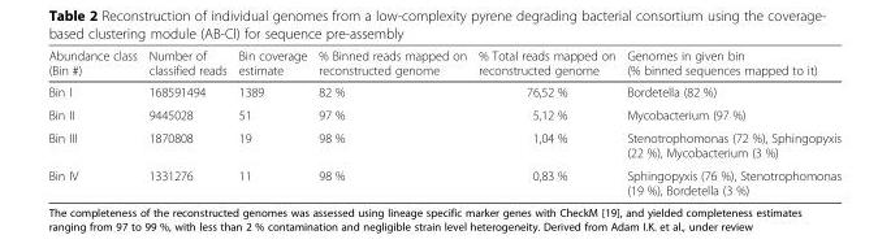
<table><thead><tr><td>Abundance class (Bin #)</td><td>Number of classified reads</td><td>Bin coverage estimate</td><td>% Binned reads mapped on reconstructed genome</td><td>% Total reads mapped on reconstructed genome</td><td>Genomes in given bin (% binned sequences mapped to it)</td></tr></thead><tbody><tr><td>Bin I</td><td>168591494</td><td>1389</td><td>82 %</td><td>76,52 %</td><td>Bordetella (82 %)</td></tr><tr><td>Bin II</td><td>9445028</td><td>51</td><td>97 %</td><td>5,12 %</td><td>Mycobacterium (97 %)</td></tr><tr><td>Bin III</td><td>1870808</td><td>19</td><td>98 %</td><td>1,04 %</td><td>Stenotrophomonas (72 %), Sphingopyxis (22 %), Mycobacterium (3 %)</td></tr><tr><td>Bin IV</td><td>1331276</td><td>11</td><td>98 %</td><td>0,83 %</td><td>Sphingopyxis (76 %), Stenotrophomonas (19 %), Bordetella (3 %)</td></tr></tbody></table>